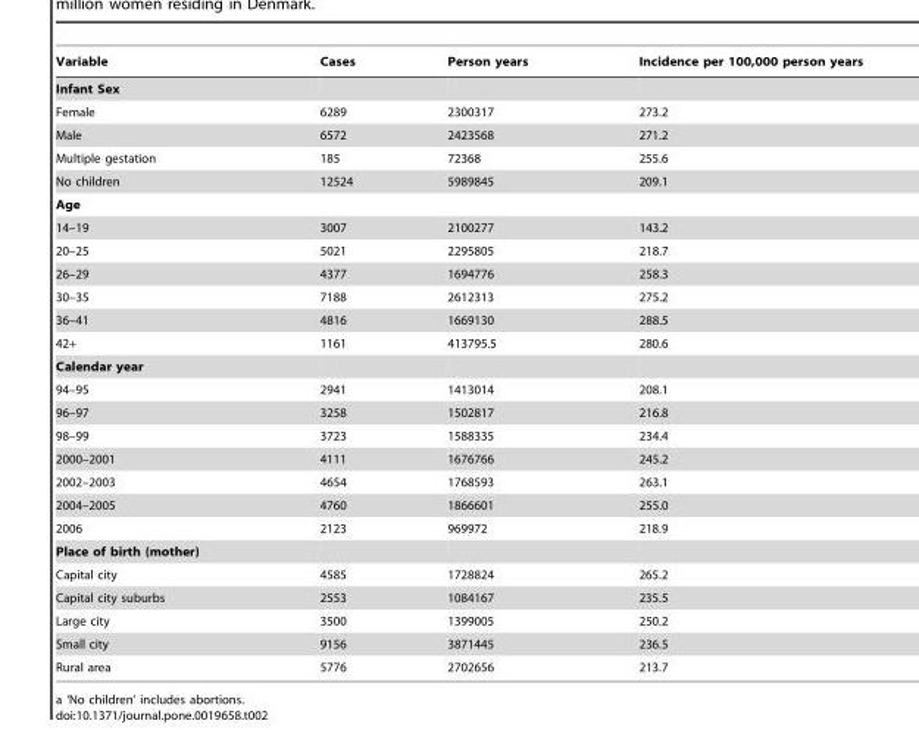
<table><thead><tr><td>Variable</td><td>Cases</td><td>Person years</td><td>Incidence per 100,000 person years</td></tr></thead><tbody><tr><td colspan="4">Infant Sex</td></tr><tr><td>Female</td><td>6289</td><td>2300317</td><td>273.2</td></tr><tr><td>Male</td><td>6572</td><td>2423568</td><td>271.2</td></tr><tr><td>Multiple gestation</td><td>185</td><td>72368</td><td>255.6</td></tr><tr><td>No children</td><td>12524</td><td>5989845</td><td>209.1</td></tr><tr><td colspan="4">Age</td></tr><tr><td>14–19</td><td>3007</td><td>2100277</td><td>143.2</td></tr><tr><td>20–25</td><td>5021</td><td>2295805</td><td>218.7</td></tr><tr><td>26–29</td><td>4377</td><td>1694776</td><td>258.3</td></tr><tr><td>30–35</td><td>7188</td><td>2612313</td><td>275.2</td></tr><tr><td>36–41</td><td>4816</td><td>1669130</td><td>288.5</td></tr><tr><td>42+</td><td>1161</td><td>413795.5</td><td>280.6</td></tr><tr><td colspan="4">Calendar year</td></tr><tr><td>94–95</td><td>2941</td><td>1413014</td><td>208.1</td></tr><tr><td>96–97</td><td>3258</td><td>1502817</td><td>216.8</td></tr><tr><td>98–99</td><td>3723</td><td>1588335</td><td>234.4</td></tr><tr><td>2000–2001</td><td>4111</td><td>1676766</td><td>245.2</td></tr><tr><td>2002–2003</td><td>4654</td><td>1768593</td><td>263.1</td></tr><tr><td>2004–2005</td><td>4760</td><td>1866601</td><td>255.0</td></tr><tr><td>2006</td><td>2123</td><td>969972</td><td>218.9</td></tr><tr><td colspan="4">Place of birth (mother)</td></tr><tr><td>Capital city</td><td>4585</td><td>1728824</td><td>265.2</td></tr><tr><td>Capital city suburbs</td><td>2553</td><td>1084167</td><td>235.5</td></tr><tr><td>Large city</td><td>3500</td><td>1399005</td><td>250.2</td></tr><tr><td>Small city</td><td>9156</td><td>3871445</td><td>236.5</td></tr><tr><td>Rural area</td><td>5776</td><td>2702656</td><td>213.7</td></tr></tbody></table>